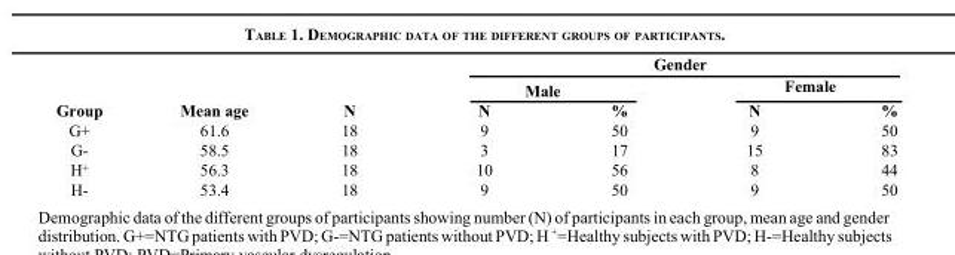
<table><thead><tr><td rowspan="3">Group</td><td rowspan="3">Mean age</td><td rowspan="3">N</td><td colspan="4">Gender</td></tr><tr><td colspan="2">Male</td><td colspan="2">Female</td></tr><tr><td>N</td><td>%</td><td>N</td><td>%</td></tr></thead><tbody><tr><td>G+</td><td>61.6</td><td>18</td><td>9</td><td>50</td><td>9</td><td>50</td></tr><tr><td>G-</td><td>58.5</td><td>18</td><td>3</td><td>17</td><td>15</td><td>83</td></tr><tr><td>H<sup>+</sup></td><td>56.3</td><td>18</td><td>10</td><td>56</td><td>8</td><td>44</td></tr><tr><td>H-</td><td>53.4</td><td>18</td><td>9</td><td>50</td><td>9</td><td>50</td></tr></tbody></table>